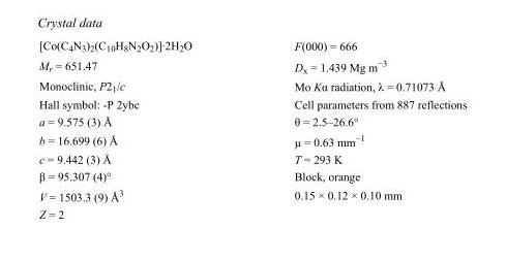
<table><tbody><tr><td>[Co(C<sub>4</sub>N<sub>3</sub>)<sub>2</sub>(C<sub>10</sub>H<sub>8</sub>N<sub>2</sub>O<sub>2</sub>)]·2H<sub>2</sub>O</td><td>F(000) = 666</td></tr><tr><td>M<sub>r</sub> = 651.47</td><td>D<sub>x</sub> = 1.439 Mg m<sup>−3</sup></td></tr><tr><td>Monoclinic, P2<sub>1</sub>/c</td><td>Mo Kα radiation, λ = 0.71073 Å</td></tr><tr><td>Hall symbol: -P 2ybc</td><td>Cell parameters from 887 reflections</td></tr><tr><td>a = 9.575 (3) Å</td><td>θ = 2.5–26.6°</td></tr><tr><td>b = 16.699 (6) Å</td><td>µ = 0.63 mm<sup>−1</sup></td></tr><tr><td>c = 9.442 (3) Å</td><td>T = 293 K</td></tr><tr><td>β = 95.307 (4)°</td><td>Block, orange</td></tr><tr><td>V = 1503.3 (9) Å<sup>3</sup></td><td>0.15 × 0.12 × 0.10 mm</td></tr><tr><td>Z = 2</td><td></td></tr></tbody></table>